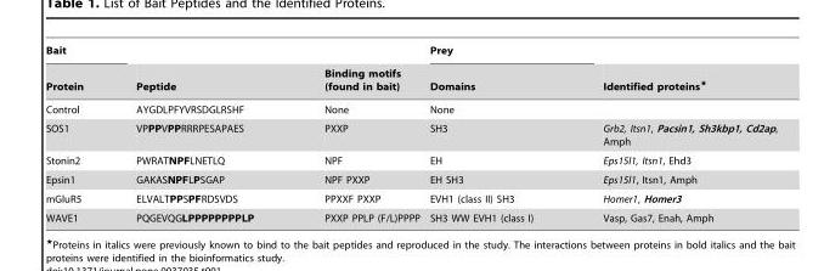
<table><thead><tr><td rowspan="2">Bait Protein</td><td rowspan="2">Peptide</td><td rowspan="2">Binding motifs (found in bait)</td><td rowspan="2">Prey Domains</td><td rowspan="2">Identified proteins★</td></tr><tr></tr></thead><tbody><tr><td>Control</td><td>AYGDLPFYVRSDGLRSHF</td><td>None</td><td>None</td><td></td></tr><tr><td>SOS1</td><td>VPPPVPPRRRPESAPAES</td><td>PXXP</td><td>SH3</td><td>Grb2, Itsn1, Pacsin1, Sh3kbp1, Cd2ap, Amph</td></tr><tr><td>Stonin2</td><td>PWRATNPFLNETLQ</td><td>NPF</td><td>EH</td><td>Eps15l1, Itsn1, Ehd3</td></tr><tr><td>Epsin1</td><td>GAKASNPFLPSGAP</td><td>NPF PXXP</td><td>EH SH3</td><td>Eps15l1, Itsn1, Amph</td></tr><tr><td>mGluR5</td><td>ELVALTPPSPFRDSVDS</td><td>PPXXF PXXP</td><td>EVH1 (class II) SH3</td><td>Homer1, Homer3</td></tr><tr><td>WAVE1</td><td>PQGEVQGLPPPPPPPPLP</td><td>PXXP PPLP (F/L)PPPP</td><td>SH3 WW EVH1 (class I)</td><td>Vasp, Gas7, Enah, Amph</td></tr></tbody></table>